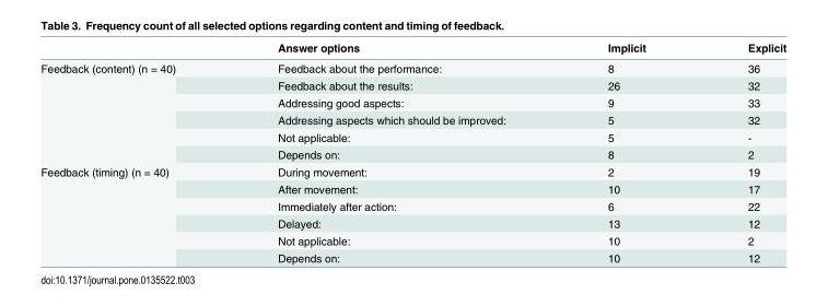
<table><thead><tr><td></td><td>Answer options</td><td>Implicit</td><td>Explicit</td></tr></thead><tbody><tr><td rowspan="6">Feedback (content) (n = 40)</td><td>Feedback about the performance:</td><td>8</td><td>36</td></tr><tr><td>Feedback about the results:</td><td>26</td><td>32</td></tr><tr><td>Addressing good aspects:</td><td>9</td><td>33</td></tr><tr><td>Addressing aspects which should be improved:</td><td>5</td><td>32</td></tr><tr><td>Not applicable:</td><td>5</td><td>-</td></tr><tr><td>Depends on:</td><td>8</td><td>2</td></tr><tr><td rowspan="6">Feedback (timing) (n = 40)</td><td>During movement:</td><td>2</td><td>19</td></tr><tr><td>After movement:</td><td>10</td><td>17</td></tr><tr><td>Immediately after action:</td><td>6</td><td>22</td></tr><tr><td>Delayed:</td><td>13</td><td>12</td></tr><tr><td>Not applicable:</td><td>10</td><td>2</td></tr><tr><td>Depends on:</td><td>10</td><td>12</td></tr></tbody></table>